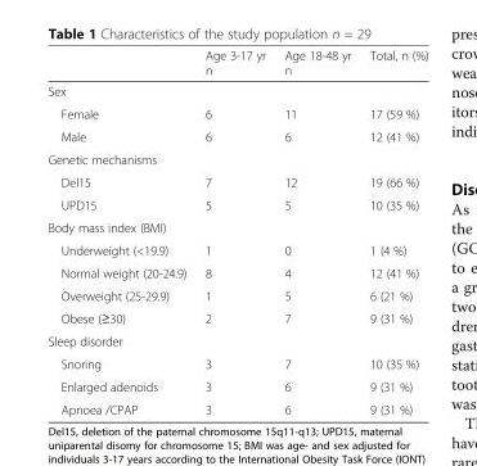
<table><thead><tr><td></td><td>Age 3-17 yr n</td><td>Age 18-48 yr n</td><td>Total, n (%)</td></tr></thead><tbody><tr><td colspan="4">Sex</td></tr><tr><td>Female</td><td>6</td><td>11</td><td>17 (59 %)</td></tr><tr><td>Male</td><td>6</td><td>6</td><td>12 (41 %)</td></tr><tr><td colspan="4">Genetic mechanisms</td></tr><tr><td>Del15</td><td>7</td><td>12</td><td>19 (66 %)</td></tr><tr><td>UPD15</td><td>5</td><td>5</td><td>10 (35 %)</td></tr><tr><td colspan="4">Body mass index (BMI)</td></tr><tr><td>Underweight (&lt;19.9)</td><td>1</td><td>0</td><td>1 (4 %)</td></tr><tr><td>Normal weight (20-24.9)</td><td>8</td><td>4</td><td>12 (41 %)</td></tr><tr><td>Overweight (25-29.9)</td><td>1</td><td>5</td><td>6 (21 %)</td></tr><tr><td>Obese (≥30)</td><td>2</td><td>7</td><td>9 (31 %)</td></tr><tr><td colspan="4">Sleep disorder</td></tr><tr><td>Snoring</td><td>3</td><td>7</td><td>10 (35 %)</td></tr><tr><td>Enlarged adenoids</td><td>3</td><td>6</td><td>9 (31 %)</td></tr><tr><td>Apnoea /CPAP</td><td>3</td><td>6</td><td>9 (31 %)</td></tr></tbody></table>